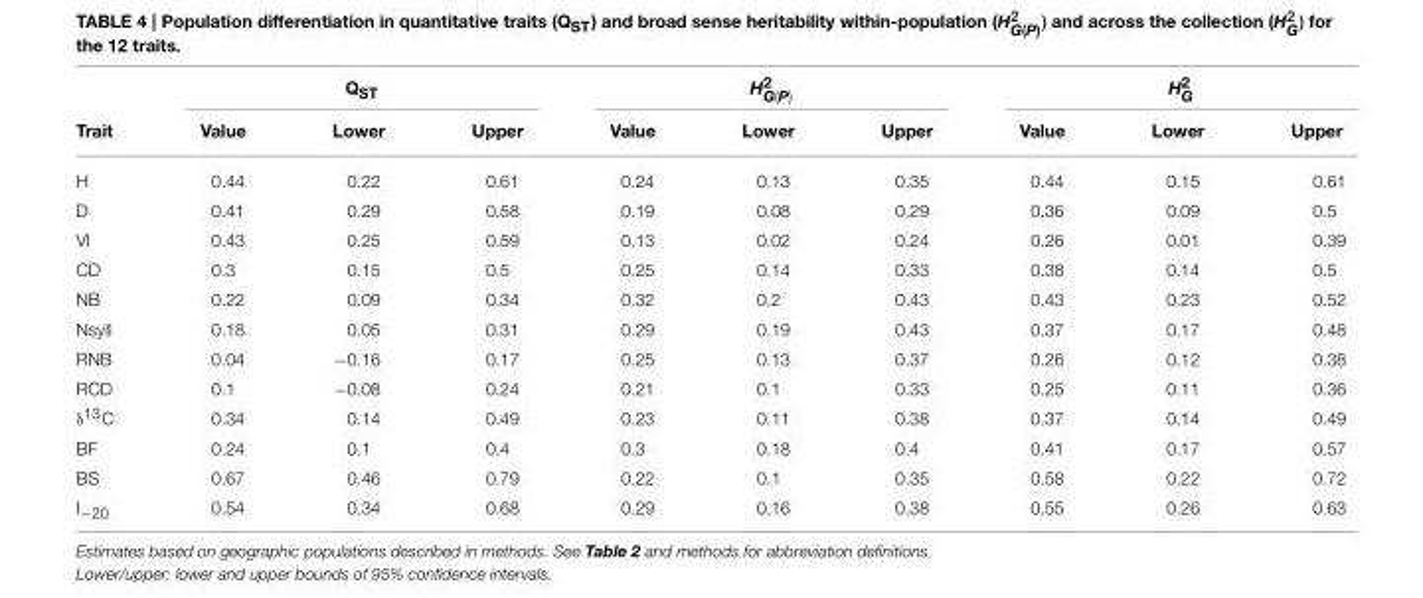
<table><thead><tr><td rowspan="2">Trait</td><td colspan="3">QST</td><td colspan="3">H<sup>2</sup> <sub>G(P)</sub></td><td colspan="3">H<sup>2</sup> <sub>G</sub></td></tr><tr><td>Value</td><td>Lower</td><td>Upper</td><td>Value</td><td>Lower</td><td>Upper</td><td>Value</td><td>Lower</td><td>Upper</td></tr></thead><tbody><tr><td>H</td><td>0.44</td><td>0.22</td><td>0.61</td><td>0.24</td><td>0.13</td><td>0.35</td><td>0.44</td><td>0.15</td><td>0.61</td></tr><tr><td>D</td><td>0.41</td><td>0.29</td><td>0.58</td><td>0.19</td><td>0.08</td><td>0.29</td><td>0.36</td><td>0.09</td><td>0.5</td></tr><tr><td>VI</td><td>0.43</td><td>0.25</td><td>0.59</td><td>0.13</td><td>0.02</td><td>0.24</td><td>0.26</td><td>0.01</td><td>0.39</td></tr><tr><td>CD</td><td>0.3</td><td>0.15</td><td>0.5</td><td>0.25</td><td>0.14</td><td>0.33</td><td>0.38</td><td>0.14</td><td>0.5</td></tr><tr><td>NB</td><td>0.22</td><td>0.09</td><td>0.34</td><td>0.32</td><td>0.2</td><td>0.43</td><td>0.43</td><td>0.23</td><td>0.52</td></tr><tr><td>Nsyll</td><td>0.18</td><td>0.05</td><td>0.31</td><td>0.29</td><td>0.19</td><td>0.43</td><td>0.37</td><td>0.17</td><td>0.48</td></tr><tr><td>RNB</td><td>0.04</td><td>−0.16</td><td>0.17</td><td>0.25</td><td>0.13</td><td>0.37</td><td>0.26</td><td>0.12</td><td>0.38</td></tr><tr><td>RCD</td><td>0.1</td><td>−0.08</td><td>0.24</td><td>0.21</td><td>0.1</td><td>0.33</td><td>0.25</td><td>0.11</td><td>0.36</td></tr><tr><td>δ<sup>13</sup>C</td><td>0.34</td><td>0.14</td><td>0.49</td><td>0.23</td><td>0.11</td><td>0.38</td><td>0.37</td><td>0.14</td><td>0.49</td></tr><tr><td>BF</td><td>0.24</td><td>0.1</td><td>0.4</td><td>0.3</td><td>0.18</td><td>0.4</td><td>0.41</td><td>0.17</td><td>0.57</td></tr><tr><td>BS</td><td>0.67</td><td>0.46</td><td>0.79</td><td>0.22</td><td>0.1</td><td>0.35</td><td>0.58</td><td>0.22</td><td>0.72</td></tr><tr><td>I<sub>−20</sub></td><td>0.54</td><td>0.34</td><td>0.68</td><td>0.29</td><td>0.16</td><td>0.38</td><td>0.55</td><td>0.26</td><td>0.63</td></tr></tbody></table>